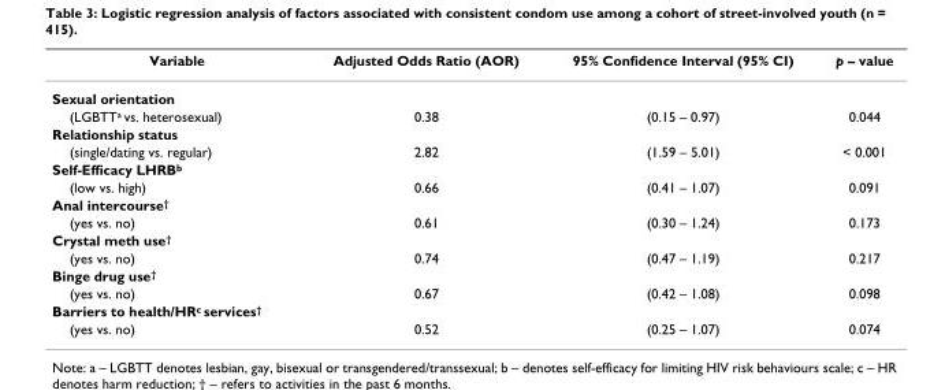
<table><thead><tr><td>Variable</td><td>Adjusted Odds Ratio (AOR)</td><td>95% Confidence Interval (95% CI)</td><td>p – value</td></tr></thead><tbody><tr><td colspan="4">Sexual orientation</td></tr><tr><td>(LGBTT<sup>a</sup> vs. heterosexual)</td><td>0.38</td><td>(0.15 – 0.97)</td><td>0.044</td></tr><tr><td colspan="4">Relationship status</td></tr><tr><td>(single/dating vs. regular)</td><td>2.82</td><td>(1.59 – 5.01)</td><td>&lt; 0.001</td></tr><tr><td colspan="4">Self-Efficacy LHRB<sup>b</sup></td></tr><tr><td>(low vs. high)</td><td>0.66</td><td>(0.41 – 1.07)</td><td>0.091</td></tr><tr><td colspan="4">Anal intercourse<sup>†</sup></td></tr><tr><td>(yes vs. no)</td><td>0.61</td><td>(0.30 – 1.24)</td><td>0.173</td></tr><tr><td colspan="4">Crystal meth use<sup>†</sup></td></tr><tr><td>(yes vs. no)</td><td>0.74</td><td>(0.47 – 1.19)</td><td>0.217</td></tr><tr><td colspan="4">Binge drug use<sup>†</sup></td></tr><tr><td>(yes vs. no)</td><td>0.67</td><td>(0.42 – 1.08)</td><td>0.098</td></tr><tr><td colspan="4">Barriers to health/HR<sup>c</sup> services<sup>†</sup></td></tr><tr><td>(yes vs. no)</td><td>0.52</td><td>(0.25 – 1.07)</td><td>0.074</td></tr></tbody></table>